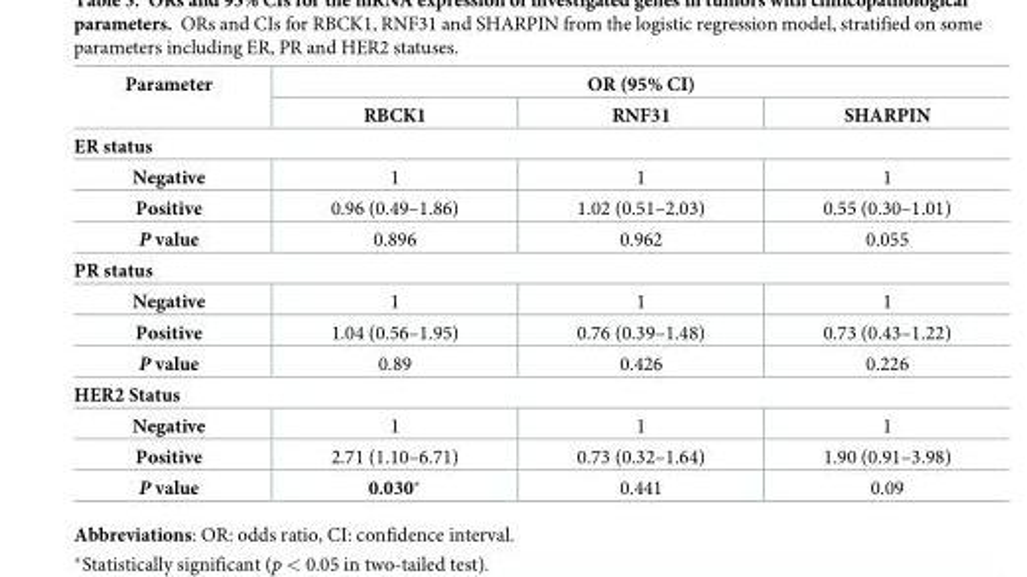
<table><thead><tr><td rowspan="2">Parameter</td><td colspan="3">OR (95% CI)</td></tr><tr><td>RBCK1</td><td>RNF31</td><td>SHARPIN</td></tr></thead><tbody><tr><td colspan="4">ER status</td></tr><tr><td>Negative</td><td>1</td><td>1</td><td>1</td></tr><tr><td>Positive</td><td>0.96 (0.49–1.86)</td><td>1.02 (0.51–2.03)</td><td>0.55 (0.30–1.01)</td></tr><tr><td>P value</td><td>0.896</td><td>0.962</td><td>0.055</td></tr><tr><td colspan="4">PR status</td></tr><tr><td>Negative</td><td>1</td><td>1</td><td>1</td></tr><tr><td>Positive</td><td>1.04 (0.56–1.95)</td><td>0.76 (0.39–1.48)</td><td>0.73 (0.43–1.22)</td></tr><tr><td>P value</td><td>0.89</td><td>0.426</td><td>0.226</td></tr><tr><td colspan="4">HER2 Status</td></tr><tr><td>Negative</td><td>1</td><td>1</td><td>1</td></tr><tr><td>Positive</td><td>2.71 (1.10–6.71)</td><td>0.73 (0.32–1.64)</td><td>1.90 (0.91–3.98)</td></tr><tr><td>P value</td><td>0.030*</td><td>0.441</td><td>0.09</td></tr></tbody></table>